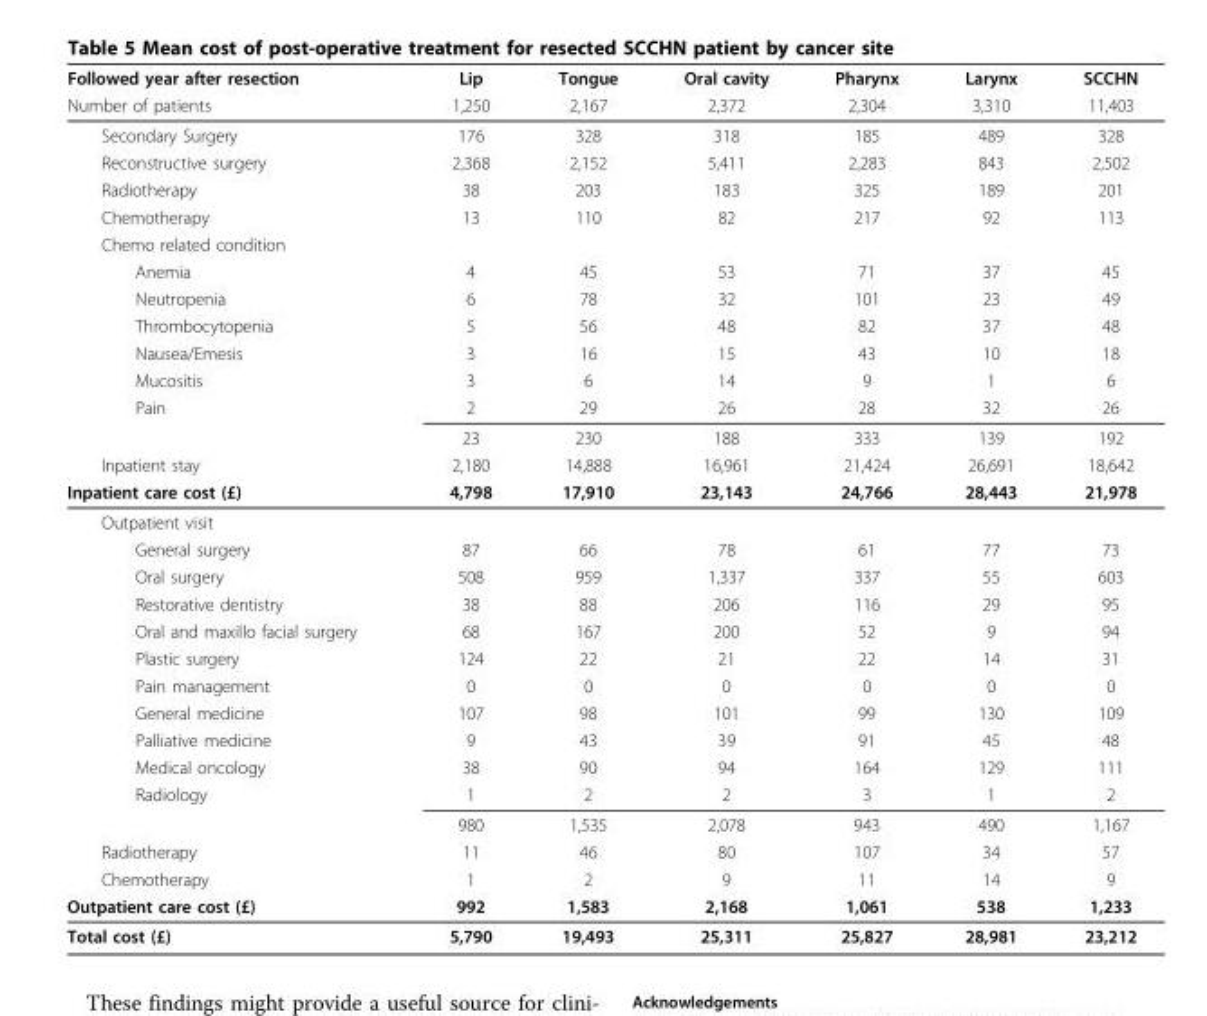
<table><thead><tr><td rowspan="2">Followed year after resection Number of patients</td><td rowspan="2">Lip 1,250</td><td rowspan="2">Tongue 2,167</td><td rowspan="2">Oral cavity 2,372</td><td rowspan="2">Pharynx 2,304</td><td rowspan="2">Larynx 3,310</td><td rowspan="2">SCCHN 11,403</td></tr><tr></tr></thead><tbody><tr><td>Secondary Surgery</td><td>176</td><td>328</td><td>318</td><td>185</td><td>489</td><td>328</td></tr><tr><td>Reconstructive surgery</td><td>2,368</td><td>2,152</td><td>5,411</td><td>2,283</td><td>843</td><td>2,502</td></tr><tr><td>Radiotherapy</td><td>38</td><td>203</td><td>183</td><td>325</td><td>189</td><td>201</td></tr><tr><td>Chemotherapy</td><td>13</td><td>110</td><td>82</td><td>217</td><td>92</td><td>113</td></tr><tr><td colspan="7">Chemo related condition</td></tr><tr><td>Anemia</td><td>4</td><td>45</td><td>53</td><td>71</td><td>37</td><td>45</td></tr><tr><td>Neutropenia</td><td>6</td><td>78</td><td>32</td><td>101</td><td>23</td><td>49</td></tr><tr><td>Thrombocytopenia</td><td>5</td><td>56</td><td>48</td><td>82</td><td>37</td><td>48</td></tr><tr><td>Nausea/Emesis</td><td>3</td><td>16</td><td>15</td><td>43</td><td>10</td><td>18</td></tr><tr><td>Mucositis</td><td>3</td><td>6</td><td>14</td><td>9</td><td>1</td><td>6</td></tr><tr><td rowspan="2">Pain</td><td>2</td><td>29</td><td>26</td><td>28</td><td>32</td><td>26</td></tr><tr><td>23</td><td>230</td><td>188</td><td>333</td><td>139</td><td>192</td></tr><tr><td>Inpatient stay</td><td>2,180</td><td>14,888</td><td>16,961</td><td>21,424</td><td>26,691</td><td>18,642</td></tr><tr><td>Inpatient care cost (£)</td><td>4,798</td><td>17,910</td><td>23,143</td><td>24,766</td><td>28,443</td><td>21,978</td></tr><tr><td colspan="7">Outpatient visit</td></tr><tr><td>General surgery</td><td>87</td><td>66</td><td>78</td><td>61</td><td>77</td><td>73</td></tr><tr><td>Oral surgery</td><td>508</td><td>959</td><td>1,337</td><td>337</td><td>55</td><td>603</td></tr><tr><td>Restorative dentistry</td><td>38</td><td>88</td><td>206</td><td>116</td><td>29</td><td>95</td></tr><tr><td>Oral and maxillo facial surgery</td><td>68</td><td>167</td><td>200</td><td>52</td><td>9</td><td>94</td></tr><tr><td>Plastic surgery</td><td>124</td><td>22</td><td>21</td><td>22</td><td>14</td><td>31</td></tr><tr><td>Pain management</td><td>0</td><td>0</td><td>0</td><td>0</td><td>0</td><td>0</td></tr><tr><td>General medicine</td><td>107</td><td>98</td><td>101</td><td>99</td><td>130</td><td>109</td></tr><tr><td>Palliative medicine</td><td>9</td><td>43</td><td>39</td><td>91</td><td>45</td><td>48</td></tr><tr><td>Medical oncology</td><td>38</td><td>90</td><td>94</td><td>164</td><td>129</td><td>111</td></tr><tr><td rowspan="2">Radiology</td><td>1</td><td>2</td><td>2</td><td>3</td><td>1</td><td>2</td></tr><tr><td>980</td><td>1,535</td><td>2,078</td><td>943</td><td>490</td><td>1,167</td></tr><tr><td>Radiotherapy</td><td>11</td><td>46</td><td>80</td><td>107</td><td>34</td><td>57</td></tr><tr><td>Chemotherapy</td><td>1</td><td>2</td><td>9</td><td>11</td><td>14</td><td>9</td></tr><tr><td>Outpatient care cost (£)</td><td>992</td><td>1,583</td><td>2,168</td><td>1,061</td><td>538</td><td>1,233</td></tr><tr><td>Total cost (£)</td><td>5,790</td><td>19,493</td><td>25,311</td><td>25,827</td><td>28,981</td><td>23,212</td></tr></tbody></table>